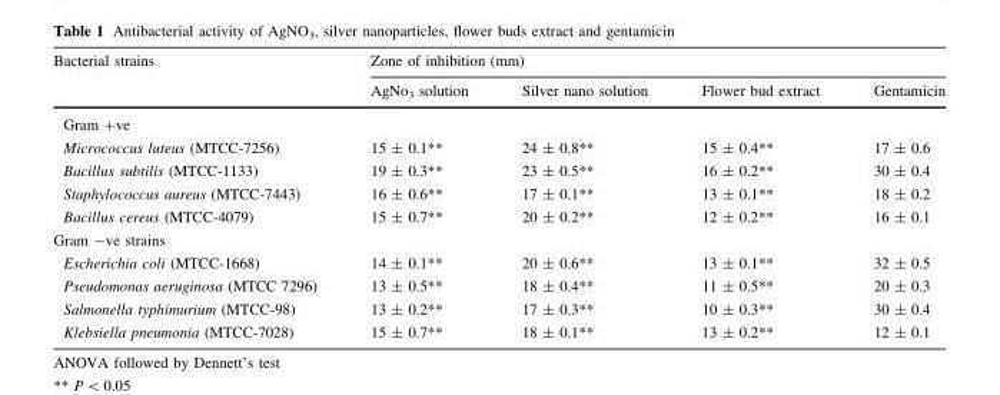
<table><thead><tr><td rowspan="2">Bacterial strains</td><td colspan="4">Zone of inhibition (mm)</td></tr><tr><td>AgNo<sub>3</sub> solution</td><td>Silver nano solution</td><td>Flower bud extract</td><td>Gentamicin</td></tr></thead><tbody><tr><td colspan="5">Gram +ve</td></tr><tr><td>Micrococcus luteus (MTCC-7256)</td><td>15 ± 0.1**</td><td>24 ± 0.8**</td><td>15 ± 0.4**</td><td>17 ± 0.6</td></tr><tr><td>Bacillus subtilis (MTCC-1133)</td><td>19 ± 0.3**</td><td>23 ± 0.5**</td><td>16 ± 0.2**</td><td>30 ± 0.4</td></tr><tr><td>Staphylococcus aureus (MTCC-7443)</td><td>16 ± 0.6**</td><td>17 ± 0.1**</td><td>13 ± 0.1**</td><td>18 ± 0.2</td></tr><tr><td>Bacillus cereus (MTCC-4079)</td><td>15 ± 0.7**</td><td>20 ± 0.2**</td><td>12 ± 0.2**</td><td>16 ± 0.1</td></tr><tr><td colspan="5">Gram -ve strains</td></tr><tr><td>Escherichia coli (MTCC-1668)</td><td>14 ± 0.1**</td><td>20 ± 0.6**</td><td>13 ± 0.1**</td><td>32 ± 0.5</td></tr><tr><td>Pseudomonas aeruginosa (MTCC 7296)</td><td>13 ± 0.5**</td><td>18 ± 0.4**</td><td>11 ± 0.5**</td><td>20 ± 0.3</td></tr><tr><td>Salmonella typhimurium (MTCC-98)</td><td>13 ± 0.2**</td><td>17 ± 0.3**</td><td>10 ± 0.3**</td><td>30 ± 0.4</td></tr><tr><td>Klebsiella pneumonia (MTCC-7028)</td><td>15 ± 0.7**</td><td>18 ± 0.1**</td><td>13 ± 0.2**</td><td>12 ± 0.1</td></tr></tbody></table>